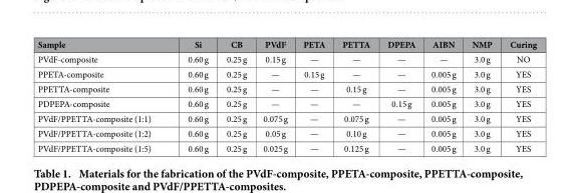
<table><thead><tr><td>Sample</td><td>Si</td><td>CB</td><td>PVdF</td><td>PETA</td><td>PETTA</td><td>DPEPA</td><td>AIBN</td><td>NMP</td><td>Curing</td></tr></thead><tbody><tr><td>PVdF-composite</td><td>0.60 g</td><td>0.25 g</td><td>0.15 g</td><td>—</td><td>—</td><td>—</td><td>—</td><td>3.0 g</td><td>NO</td></tr><tr><td>PPETA-composite</td><td>0.60 g</td><td>0.25 g</td><td>—</td><td>0.15 g</td><td>—</td><td>—</td><td>0.005 g</td><td>3.0 g</td><td>YES</td></tr><tr><td>PPETTA-composite</td><td>0.60 g</td><td>0.25 g</td><td>—</td><td>—</td><td>0.15 g</td><td>—</td><td>0.005 g</td><td>3.0 g</td><td>YES</td></tr><tr><td>PDPEPA-composite</td><td>0.60 g</td><td>0.25 g</td><td>—</td><td>—</td><td>—</td><td>0.15 g</td><td>0.005 g</td><td>3.0 g</td><td>YES</td></tr><tr><td>PVdF/PPETTA-composite (1:1)</td><td>0.60 g</td><td>0.25 g</td><td>0.075 g</td><td>—</td><td>0.075 g</td><td>—</td><td>0.005 g</td><td>3.0 g</td><td>YES</td></tr><tr><td>PVdF/PPETTA-composite (1:2)</td><td>0.60 g</td><td>0.25 g</td><td>0.05 g</td><td>—</td><td>0.10 g</td><td>—</td><td>0.005 g</td><td>3.0 g</td><td>YES</td></tr><tr><td>PVdF/PPETTA-composite (1:5)</td><td>0.60 g</td><td>0.25 g</td><td>0.025 g</td><td>—</td><td>0.125 g</td><td>—</td><td>0.005 g</td><td>3.0 g</td><td>YES</td></tr></tbody></table>